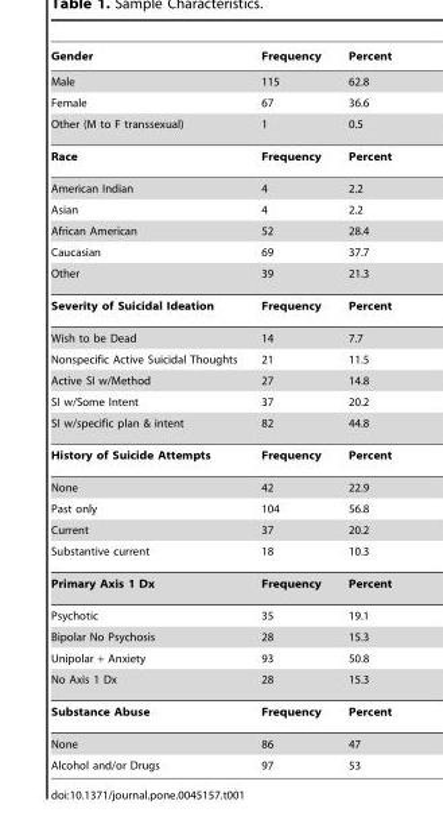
<table><thead><tr><td>Gender</td><td>Frequency</td><td>Percent</td></tr></thead><tbody><tr><td>Male</td><td>115</td><td>62.8</td></tr><tr><td>Female</td><td>67</td><td>36.6</td></tr><tr><td>Other (M to F transsexual)</td><td>1</td><td>0.5</td></tr><tr><td>Race</td><td>Frequency</td><td>Percent</td></tr><tr><td>American Indian</td><td>4</td><td>2.2</td></tr><tr><td>Asian</td><td>4</td><td>2.2</td></tr><tr><td>African American</td><td>52</td><td>28.4</td></tr><tr><td>Caucasian</td><td>69</td><td>37.7</td></tr><tr><td>Other</td><td>39</td><td>21.3</td></tr><tr><td>Severity of Suicidal Ideation</td><td>Frequency</td><td>Percent</td></tr><tr><td>Wish to be Dead</td><td>14</td><td>7.7</td></tr><tr><td>Nonspecific Active Suicidal Thoughts</td><td>21</td><td>11.5</td></tr><tr><td>Active SI w/Method</td><td>27</td><td>14.8</td></tr><tr><td>SI w/Some Intent</td><td>37</td><td>20.2</td></tr><tr><td>SI w/specific plan &amp; intent</td><td>82</td><td>44.8</td></tr><tr><td>History of Suicide Attempts</td><td>Frequency</td><td>Percent</td></tr><tr><td>None</td><td>42</td><td>22.9</td></tr><tr><td>Past only</td><td>104</td><td>56.8</td></tr><tr><td>Current</td><td>37</td><td>20.2</td></tr><tr><td>Substantive current</td><td>18</td><td>10.3</td></tr><tr><td>Primary Axis 1 Dx</td><td>Frequency</td><td>Percent</td></tr><tr><td>Psychotic</td><td>35</td><td>19.1</td></tr><tr><td>Bipolar No Psychosis</td><td>28</td><td>15.3</td></tr><tr><td>Unipolar + Anxiety</td><td>93</td><td>50.8</td></tr><tr><td>No Axis 1 Dx</td><td>28</td><td>15.3</td></tr><tr><td>Substance Abuse</td><td>Frequency</td><td>Percent</td></tr><tr><td>None</td><td>86</td><td>47</td></tr><tr><td>Alcohol and/or Drugs</td><td>97</td><td>53</td></tr></tbody></table>